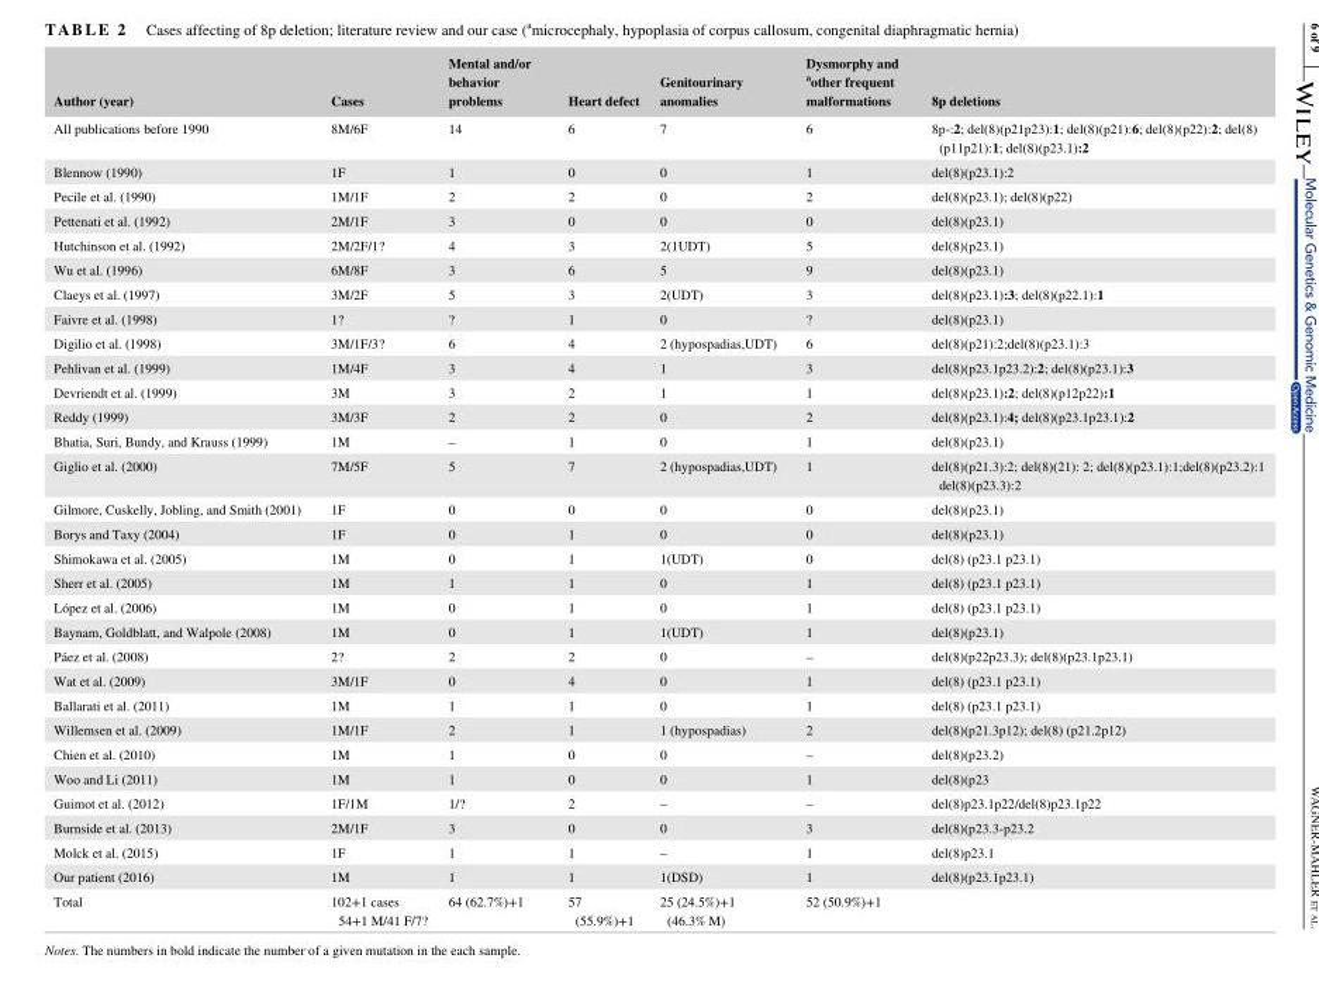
<table><thead><tr><td>Author (year)</td><td>Cases</td><td>Mental and/or behavior problems</td><td>Heart defect</td><td>Genitourinary anomalies</td><td>Dysmorphy and <sup>a</sup>other frequent malformations</td><td>8p deletions</td></tr></thead><tbody><tr><td>All publications before 1990</td><td>8M/6F</td><td>14</td><td>6</td><td>7</td><td>6</td><td>8p‐:2; del(8)(p21p23):1; del(8)(p21):6; del(8)(p22):2; del(8) (p11p21):1; del(8)(p23.1):2</td></tr><tr><td>Blennow (1990)</td><td>1F</td><td>1</td><td>0</td><td>0</td><td>1</td><td>del(8)(p23.1):2</td></tr><tr><td>Pecile et al. (1990)</td><td>1M/1F</td><td>2</td><td>2</td><td>0</td><td>2</td><td>del(8)(p23.1); del(8)(p22)</td></tr><tr><td>Pettenati et al. (1992)</td><td>2M/1F</td><td>3</td><td>0</td><td>0</td><td>0</td><td>del(8)(p23.1)</td></tr><tr><td>Hutchinson et al. (1992)</td><td>2M/2F/1?</td><td>4</td><td>3</td><td>2(1UDT)</td><td>5</td><td>del(8)(p23.1)</td></tr><tr><td>Wu et al. (1996)</td><td>6M/8F</td><td>3</td><td>6</td><td>5</td><td>9</td><td>del(8)(p23.1)</td></tr><tr><td>Claeys et al. (1997)</td><td>3M/2F</td><td>5</td><td>3</td><td>2(UDT)</td><td>3</td><td>del(8)(p23.1):3; del(8)(p22.1):1</td></tr><tr><td>Faivre et al. (1998)</td><td>1?</td><td>?</td><td>1</td><td>0</td><td>?</td><td>del(8)(p23.1)</td></tr><tr><td>Digilio et al. (1998)</td><td>3M/1F/3?</td><td>6</td><td>4</td><td>2 (hypospadias,UDT)</td><td>6</td><td>del(8)(p21):2;del(8)(p23.1):3</td></tr><tr><td>Pehlivan et al. (1999)</td><td>1M/4F</td><td>3</td><td>4</td><td>1</td><td>3</td><td>del(8)(p23.1p23.2):2; del(8)(p23.1):3</td></tr><tr><td>Devriendt et al. (1999)</td><td>3M</td><td>3</td><td>2</td><td>1</td><td>1</td><td>del(8)(p23.1):2; del(8)(p12p22):1</td></tr><tr><td>Reddy (1999)</td><td>3M/3F</td><td>2</td><td>2</td><td>0</td><td>2</td><td>del(8)(p23.1):4; del(8)(p23.1p23.1):2</td></tr><tr><td>Bhatia, Suri, Bundy, and Krauss (1999)</td><td>1M</td><td>–</td><td>1</td><td>0</td><td>1</td><td>del(8)(p23.1)</td></tr><tr><td>Giglio et al. (2000)</td><td>7M/5F</td><td>5</td><td>7</td><td>2 (hypospadias,UDT)</td><td>1</td><td>del(8)(p21.3):2; del(8)(21): 2; del(8)(p23.1):1;del(8)(p23.2):1 del(8)(p23.3):2</td></tr><tr><td>Gilmore, Cuskelly, Jobling, and Smith (2001)</td><td>1F</td><td>0</td><td>0</td><td>0</td><td>0</td><td>del(8)(p23.1)</td></tr><tr><td>Borys and Taxy (2004)</td><td>1F</td><td>0</td><td>1</td><td>0</td><td>0</td><td>del(8)(p23.1)</td></tr><tr><td>Shimokawa et al. (2005)</td><td>1M</td><td>0</td><td>1</td><td>1(UDT)</td><td>0</td><td>del(8) (p23.1 p23.1)</td></tr><tr><td>Sherr et al. (2005)</td><td>1M</td><td>1</td><td>1</td><td>0</td><td>1</td><td>del(8) (p23.1 p23.1)</td></tr><tr><td>López et al. (2006)</td><td>1M</td><td>0</td><td>1</td><td>0</td><td>1</td><td>del(8) (p23.1 p23.1)</td></tr><tr><td>Baynam, Goldblatt, and Walpole (2008)</td><td>1M</td><td>0</td><td>1</td><td>1(UDT)</td><td>1</td><td>del(8)(p23.1)</td></tr><tr><td>Páez et al. (2008)</td><td>2?</td><td>2</td><td>2</td><td>0</td><td>–</td><td>del(8)(p22p23.3); del(8)(p23.1p23.1)</td></tr><tr><td>Wat et al. (2009)</td><td>3M/1F</td><td>0</td><td>4</td><td>0</td><td>1</td><td>del(8) (p23.1 p23.1)</td></tr><tr><td>Ballarati et al. (2011)</td><td>1M</td><td>1</td><td>1</td><td>0</td><td>1</td><td>del(8) (p23.1 p23.1)</td></tr><tr><td>Willemsen et al. (2009)</td><td>1M/1F</td><td>2</td><td>1</td><td>1 (hypospadias)</td><td>2</td><td>del(8)(p21.3p12); del(8) (p21.2p12)</td></tr><tr><td>Chien et al. (2010)</td><td>1M</td><td>1</td><td>0</td><td>0</td><td>–</td><td>del(8)(p23.2)</td></tr><tr><td>Woo and Li (2011)</td><td>1M</td><td>1</td><td>0</td><td>0</td><td>1</td><td>del(8)(p23</td></tr><tr><td>Guimot et al. (2012)</td><td>1F/1M</td><td>1/?</td><td>2</td><td>–</td><td>–</td><td>del(8)p23.1p22/del(8)p23.1p22</td></tr><tr><td>Burnside et al. (2013)</td><td>2M/1F</td><td>3</td><td>0</td><td>0</td><td>3</td><td>del(8)(p23.3‐p23.2</td></tr><tr><td>Molck et al. (2015)</td><td>1F</td><td>1</td><td>1</td><td>–</td><td>1</td><td>del(8)p23.1</td></tr><tr><td>Our patient (2016)</td><td>1M</td><td>1</td><td>1</td><td>1(DSD)</td><td>1</td><td>del(8)(p23.1p23.1)</td></tr><tr><td>Total</td><td>102+1 cases 54+1 M/41 F/7?</td><td>64 (62.7%)+1</td><td>57 (55.9%)+1</td><td>25 (24.5%)+1 (46.3% M)</td><td>52 (50.9%)+1</td><td></td></tr></tbody></table>